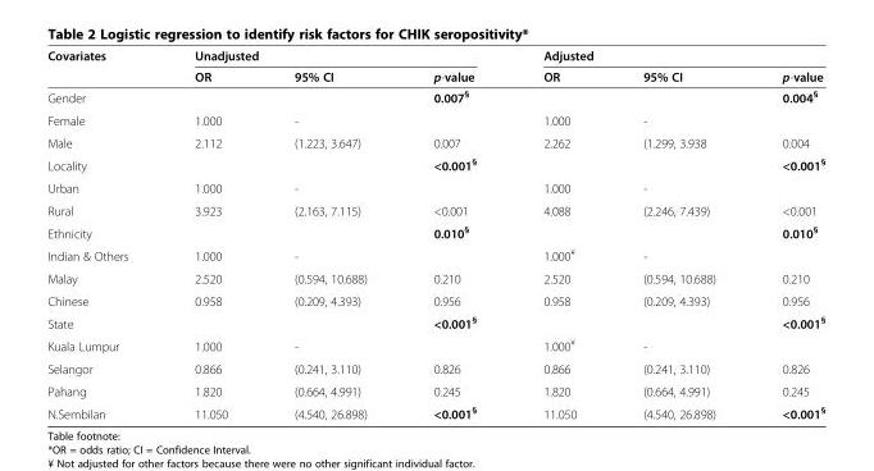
<table><thead><tr><td rowspan="2">Covariates</td><td colspan="3">Unadjusted</td><td colspan="3">Adjusted</td></tr><tr><td>OR</td><td>95% CI</td><td>p-value</td><td>OR</td><td>95% CI</td><td>p-value</td></tr></thead><tbody><tr><td>Gender</td><td></td><td></td><td>0.007<sup>§</sup></td><td></td><td></td><td>0.004<sup>§</sup></td></tr><tr><td>Female</td><td>1.000</td><td>-</td><td></td><td>1.000</td><td>-</td><td></td></tr><tr><td>Male</td><td>2.112</td><td>(1.223, 3.647)</td><td>0.007</td><td>2.262</td><td>(1.299, 3.938</td><td>0.004</td></tr><tr><td>Locality</td><td></td><td></td><td>&lt;0.001<sup>§</sup></td><td></td><td></td><td>&lt;0.001<sup>§</sup></td></tr><tr><td>Urban</td><td>1.000</td><td>-</td><td></td><td>1.000</td><td>-</td><td></td></tr><tr><td>Rural</td><td>3.923</td><td>(2.163, 7.115)</td><td>&lt;0.001</td><td>4.088</td><td>(2.246, 7.439)</td><td>&lt;0.001</td></tr><tr><td>Ethnicity</td><td></td><td></td><td>0.010<sup>§</sup></td><td></td><td></td><td>0.010<sup>§</sup></td></tr><tr><td>Indian &amp; Others</td><td>1.000</td><td>-</td><td></td><td>1.000<sup>¥</sup></td><td>-</td><td></td></tr><tr><td>Malay</td><td>2.520</td><td>(0.594, 10.688)</td><td>0.210</td><td>2.520</td><td>(0.594, 10.688)</td><td>0.210</td></tr><tr><td>Chinese</td><td>0.958</td><td>(0.209, 4.393)</td><td>0.956</td><td>0.958</td><td>(0.209, 4.393)</td><td>0.956</td></tr><tr><td>State</td><td></td><td></td><td>&lt;0.001<sup>§</sup></td><td></td><td></td><td>&lt;0.001<sup>§</sup></td></tr><tr><td>Kuala Lumpur</td><td>1.000</td><td>-</td><td></td><td>1.000<sup>¥</sup></td><td>-</td><td></td></tr><tr><td>Selangor</td><td>0.866</td><td>(0.241, 3.110)</td><td>0.826</td><td>0.866</td><td>(0.241, 3.110)</td><td>0.826</td></tr><tr><td>Pahang</td><td>1.820</td><td>(0.664, 4.991)</td><td>0.245</td><td>1.820</td><td>(0.664, 4.991)</td><td>0.245</td></tr><tr><td>N.Sembilan</td><td>11.050</td><td>(4.540, 26.898)</td><td>&lt;0.001<sup>§</sup></td><td>11.050</td><td>(4.540, 26.898)</td><td>&lt;0.001<sup>§</sup></td></tr></tbody></table>